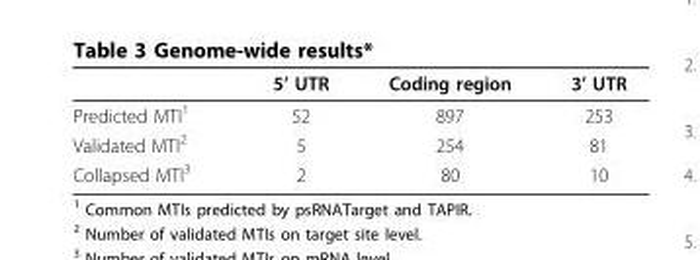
<table><thead><tr><td></td><td>5’ UTR</td><td>Coding region</td><td>3’ UTR</td></tr></thead><tbody><tr><td>Predicted MTI<sup>1</sup></td><td>52</td><td>897</td><td>253</td></tr><tr><td>Validated MTI<sup>2</sup></td><td>5</td><td>254</td><td>81</td></tr><tr><td>Collapsed MTI<sup>3</sup></td><td>2</td><td>80</td><td>10</td></tr></tbody></table>